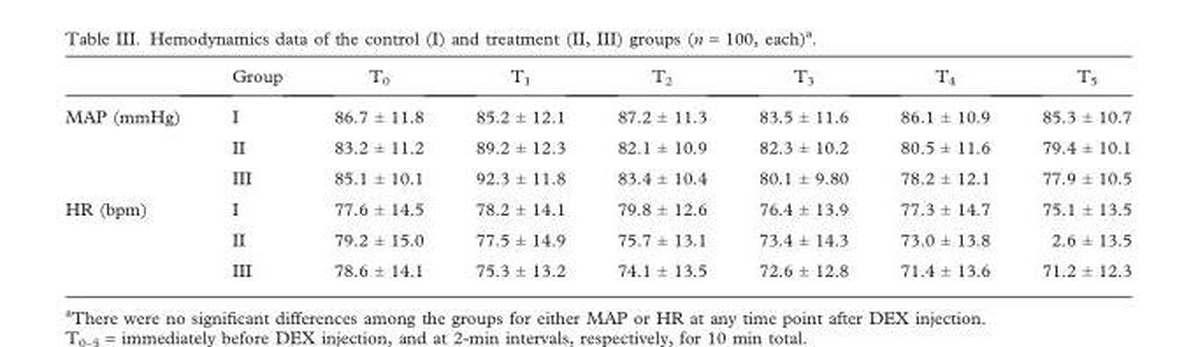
<table><thead><tr><td></td><td>Group</td><td>T<sub>0</sub></td><td>T<sub>1</sub></td><td>T<sub>2</sub></td><td>T<sub>3</sub></td><td>T<sub>4</sub></td><td>T<sub>5</sub></td></tr></thead><tbody><tr><td rowspan="3">MAP (mmHg)</td><td>I</td><td>86.7 ± 11.8</td><td>85.2 ± 12.1</td><td>87.2 ± 11.3</td><td>83.5 ± 11.6</td><td>86.1 ± 10.9</td><td>85.3 ± 10.7</td></tr><tr><td>II</td><td>83.2 ± 11.2</td><td>89.2 ± 12.3</td><td>82.1 ± 10.9</td><td>82.3 ± 10.2</td><td>80.5 ± 11.6</td><td>79.4 ± 10.1</td></tr><tr><td>III</td><td>85.1 ± 10.1</td><td>92.3 ± 11.8</td><td>83.4 ± 10.4</td><td>80.1 ± 9.80</td><td>78.2 ± 12.1</td><td>77.9 ± 10.5</td></tr><tr><td rowspan="3">HR (bpm)</td><td>I</td><td>77.6 ± 14.5</td><td>78.2 ± 14.1</td><td>79.8 ± 12.6</td><td>76.4 ± 13.9</td><td>77.3 ± 14.7</td><td>75.1 ± 13.5</td></tr><tr><td>II</td><td>79.2 ± 15.0</td><td>77.5 ± 14.9</td><td>75.7 ± 13.1</td><td>73.4 ± 14.3</td><td>73.0 ± 13.8</td><td>2.6 ± 13.5</td></tr><tr><td>III</td><td>78.6 ± 14.1</td><td>75.3 ± 13.2</td><td>74.1 ± 13.5</td><td>72.6 ± 12.8</td><td>71.4 ± 13.6</td><td>71.2 ± 12.3</td></tr></tbody></table>